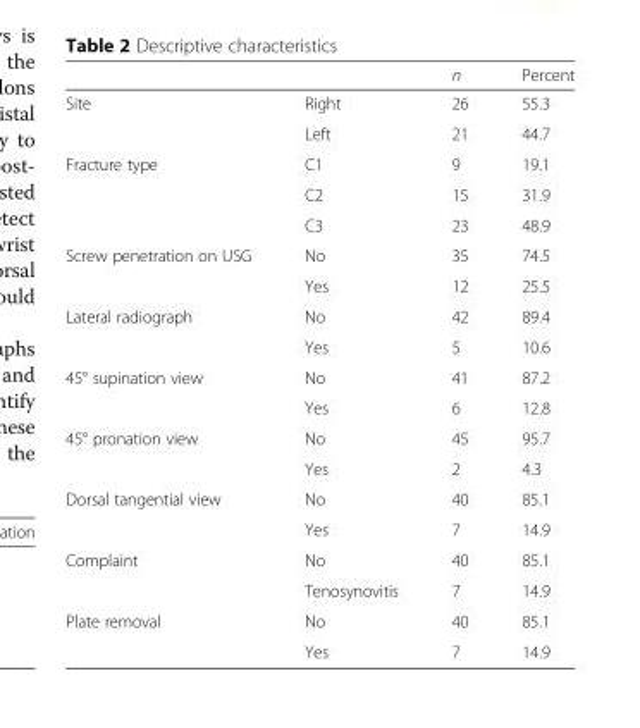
<table><thead><tr><td></td><td></td><td>n</td><td>Percent</td></tr></thead><tbody><tr><td rowspan="2">Site</td><td>Right</td><td>26</td><td>55.3</td></tr><tr><td>Left</td><td>21</td><td>44.7</td></tr><tr><td rowspan="3">Fracture type</td><td>C1</td><td>9</td><td>19.1</td></tr><tr><td>C2</td><td>15</td><td>31.9</td></tr><tr><td>C3</td><td>23</td><td>48.9</td></tr><tr><td rowspan="2">Screw penetration on USG</td><td>No</td><td>35</td><td>74.5</td></tr><tr><td>Yes</td><td>12</td><td>25.5</td></tr><tr><td rowspan="2">Lateral radiograph</td><td>No</td><td>42</td><td>89.4</td></tr><tr><td>Yes</td><td>5</td><td>10.6</td></tr><tr><td rowspan="2">45° supination view</td><td>No</td><td>41</td><td>87.2</td></tr><tr><td>Yes</td><td>6</td><td>12.8</td></tr><tr><td rowspan="2">45° pronation view</td><td>No</td><td>45</td><td>95.7</td></tr><tr><td>Yes</td><td>2</td><td>4.3</td></tr><tr><td rowspan="2">Dorsal tangential view</td><td>No</td><td>40</td><td>85.1</td></tr><tr><td>Yes</td><td>7</td><td>14.9</td></tr><tr><td rowspan="2">Complaint</td><td>No</td><td>40</td><td>85.1</td></tr><tr><td>Tenosynovitis</td><td>7</td><td>14.9</td></tr><tr><td rowspan="2">Plate removal</td><td>No</td><td>40</td><td>85.1</td></tr><tr><td>Yes</td><td>7</td><td>14.9</td></tr></tbody></table>